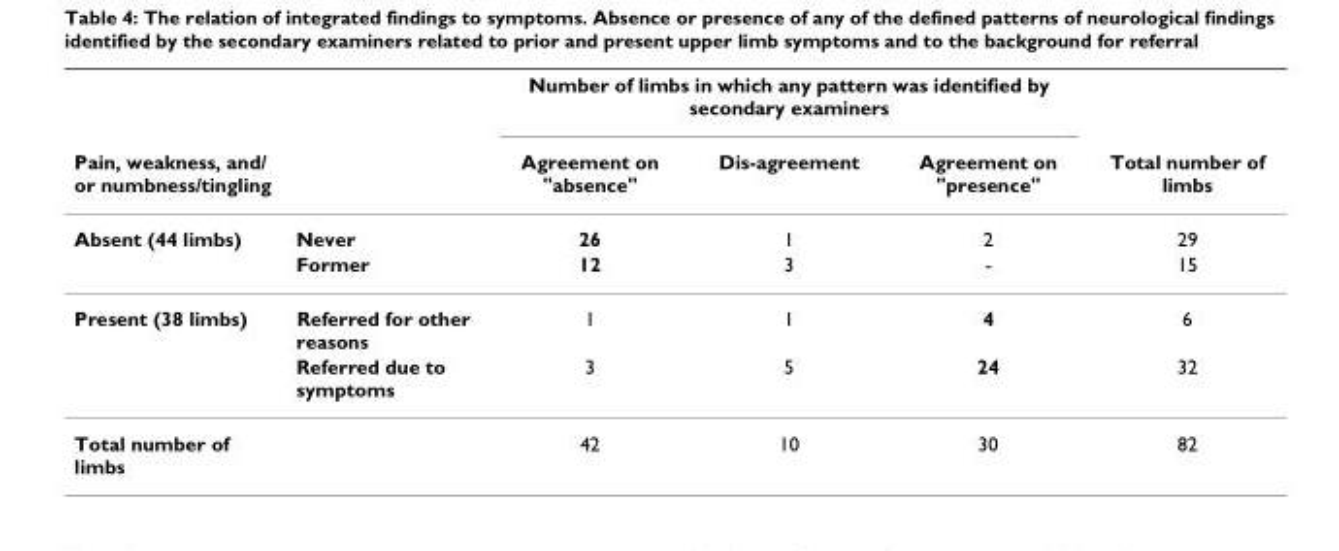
<table><thead><tr><td rowspan="2">Pain, weakness, and/ or numbness/tingling</td><td rowspan="2"></td><td colspan="3">Number of limbs in which any pattern was identified by secondary examiners</td><td rowspan="2">Total number of limbs</td></tr><tr><td>Agreement on &quot;absence&quot;</td><td>Dis-agreement</td><td>Agreement on &quot;presence&quot;</td></tr></thead><tbody><tr><td rowspan="2">Absent (44 limbs)</td><td>Never</td><td>26</td><td>1</td><td>2</td><td>29</td></tr><tr><td>Former</td><td>12</td><td>3</td><td>-</td><td>15</td></tr><tr><td rowspan="2">Present (38 limbs)</td><td>Referred for other reasons</td><td>1</td><td>1</td><td>4</td><td>6</td></tr><tr><td>Referred due to symptoms</td><td>3</td><td>5</td><td>24</td><td>32</td></tr><tr><td>Total number of limbs</td><td></td><td>42</td><td>10</td><td>30</td><td>82</td></tr></tbody></table>